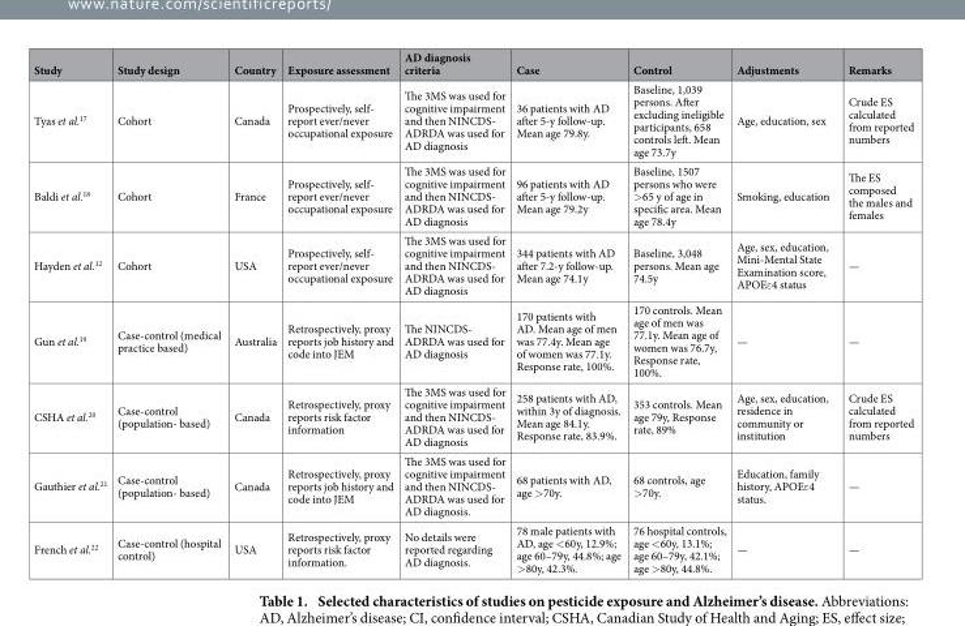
<table><thead><tr><td>Study</td><td>Study design</td><td>Country</td><td>Exposure assessment</td><td>AD diagnosis criteria</td><td>Case</td><td>Control</td><td>Adjustments</td><td>Remarks</td></tr></thead><tbody><tr><td>Tyas et al.<sup>17</sup></td><td>Cohort</td><td>Canada</td><td>Prospectively, self- report ever/never occupational exposure</td><td>The 3MS was used for cognitive impairment and then NINCDS- ADRDA was used for AD diagnosis</td><td>36 patients with AD after 5-y follow-up. Mean age 79.8y.</td><td>Baseline, 1,039 persons. After excluding ineligible participants, 658 controls left. Mean age 73.7y</td><td>Age, education, sex</td><td>Crude ES calculated from reported numbers</td></tr><tr><td>Baldi et al.<sup>18</sup></td><td>Cohort</td><td>France</td><td>Prospectively, self- report ever/never occupational exposure</td><td>The 3MS was used for cognitive impairment and then NINCDS- ADRDA was used for AD diagnosis</td><td>96 patients with AD after 5-y follow-up. Mean age 79.2y</td><td>Baseline, 1507 persons who were &gt; 65 y of age in specific area. Mean age 78.4y</td><td>Smoking, education</td><td>The ES composed the males and females</td></tr><tr><td>Hayden et al.<sup>12</sup></td><td>Cohort</td><td>USA</td><td>Prospectively, self- report ever/never occupational exposure</td><td>The 3MS was used for cognitive impairment and then NINCDS- ADRDA was used for AD diagnosis</td><td>344 patients with AD after 7.2-y follow-up. Mean age 74.1y</td><td>Baseline, 3,048 persons. Mean age 74.5y</td><td>Age, sex, education, Mini-Mental State Examination score, APOEε 4 status</td><td>—</td></tr><tr><td>Gun et al.<sup>19</sup></td><td>Case-control (medical practice based)</td><td>Australia</td><td>Retrospectively, proxy reports job history and code into JEM</td><td>The NINCDS- ADRDA was used for AD diagnosis</td><td>170 patients with AD. Mean age of men was 77.4y. Mean age of women was 77.1y. Response rate, 100%.</td><td>170 controls. Mean age of men was 77.1y. Mean age of women was 76.7y, Response rate, 100%.</td><td>—</td><td>—</td></tr><tr><td>CSHA et al.<sup>20</sup></td><td>Case-control (population- based)</td><td>Canada</td><td>Retrospectively, proxy reports risk factor information</td><td>The 3MS was used for cognitive impairment and then NINCDS- ADRDA was used for AD diagnosis</td><td>258 patients with AD, within 3y of diagnosis. Mean age 84.1y. Response rate, 83.9%.</td><td>353 controls. Mean age 79y, Response rate, 89%</td><td>Age, sex, education, residence in community or institution</td><td>Crude ES calculated from reported numbers</td></tr><tr><td>Gauthier et al.<sup>21</sup></td><td>Case-control (population- based)</td><td>Canada</td><td>Retrospectively, proxy reports job history and code into JEM</td><td>The 3MS was used for cognitive impairment and then NINCDS- ADRDA was used for AD diagnosis.</td><td>68 patients with AD, age &gt; 70y.</td><td>68 controls, age &gt; 70y.</td><td>Education, family history, APOEε 4 status.</td><td>—</td></tr><tr><td>French et al.<sup>22</sup></td><td>Case-control (hospital control)</td><td>USA</td><td>Retrospectively, proxy reports risk factor information.</td><td>No details were reported regarding AD diagnosis.</td><td>78 male patients with AD, age &lt; 60y, 12.9%; age 60–79y, 44.8%; age &gt; 80y, 42.3%.</td><td>76 hospital controls, age &lt; 60y, 13.1%; age 60–79y, 42.1%; age &gt; 80y, 44.8%.</td><td>—</td><td>—</td></tr></tbody></table>